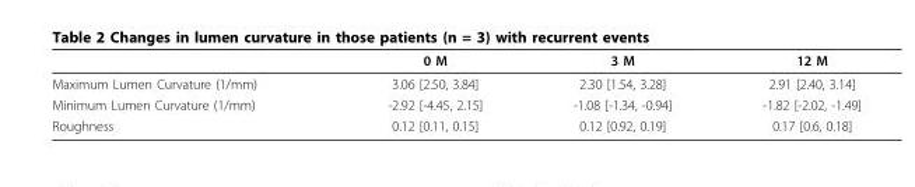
<table><thead><tr><td></td><td>0 M</td><td>3 M</td><td>12 M</td></tr></thead><tbody><tr><td>Maximum Lumen Curvature (1/mm)</td><td>3.06 [2.50, 3.84]</td><td>2.30 [1.54, 3.28]</td><td>2.91 [2.40, 3.14]</td></tr><tr><td>Minimum Lumen Curvature (1/mm)</td><td>-2.92 [-4.45, 2.15]</td><td>-1.08 [-1.34, -0.94]</td><td>-1.82 [-2.02, -1.49]</td></tr><tr><td>Roughness</td><td>0.12 [0.11, 0.15]</td><td>0.12 [0.92, 0.19]</td><td>0.17 [0.6, 0.18]</td></tr></tbody></table>